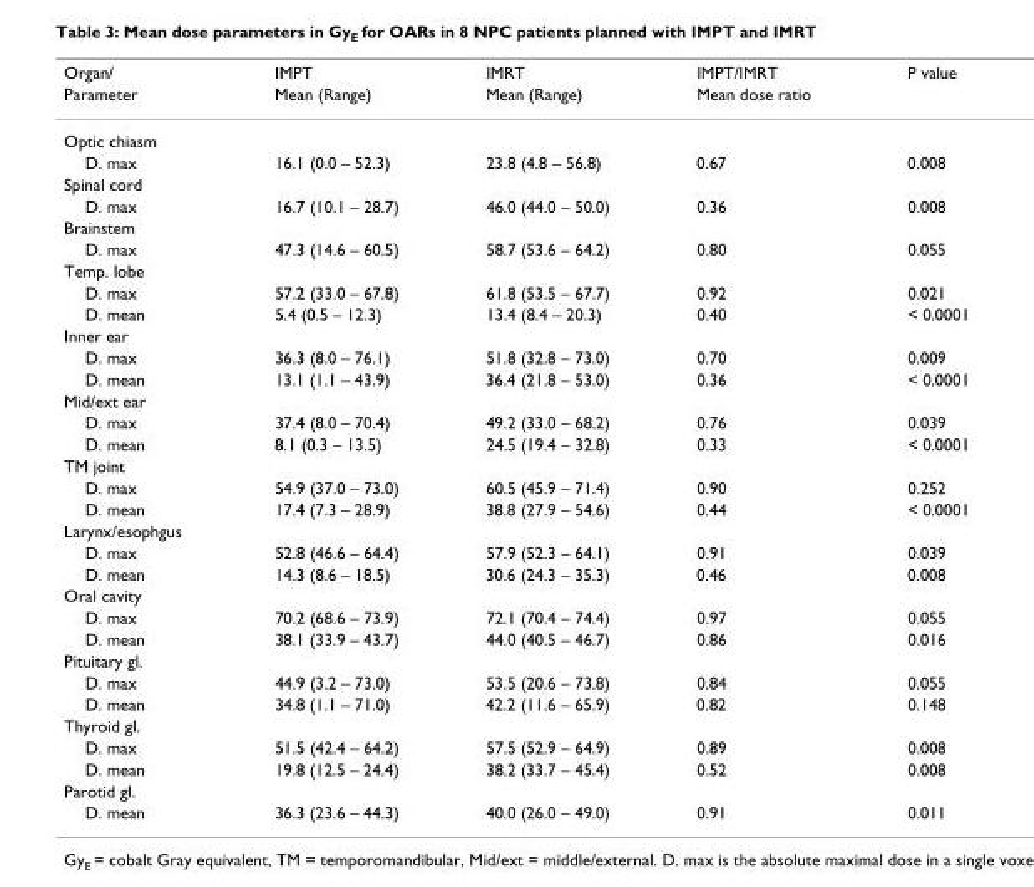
<table><thead><tr><td rowspan="2">Organ/ Parameter</td><td rowspan="2">IMPT Mean (Range)</td><td rowspan="2">IMRT Mean (Range)</td><td rowspan="2">IMPT/IMRT Mean dose ratio</td><td rowspan="2">P value</td></tr><tr></tr></thead><tbody><tr><td colspan="5">Optic chiasm</td></tr><tr><td>D. max</td><td>16.1 (0.0 – 52.3)</td><td>23.8 (4.8 – 56.8)</td><td>0.67</td><td>0.008</td></tr><tr><td colspan="5">Spinal cord</td></tr><tr><td>D. max</td><td>16.7 (10.1 – 28.7)</td><td>46.0 (44.0 – 50.0)</td><td>0.36</td><td>0.008</td></tr><tr><td colspan="5">Brainstem</td></tr><tr><td>D. max</td><td>47.3 (14.6 – 60.5)</td><td>58.7 (53.6 – 64.2)</td><td>0.80</td><td>0.055</td></tr><tr><td colspan="5">Temp. lobe</td></tr><tr><td>D. max</td><td>57.2 (33.0 – 67.8)</td><td>61.8 (53.5 – 67.7)</td><td>0.92</td><td>0.021</td></tr><tr><td>D. mean</td><td>5.4 (0.5 – 12.3)</td><td>13.4 (8.4 – 20.3)</td><td>0.40</td><td>&lt; 0.0001</td></tr><tr><td colspan="5">Inner ear</td></tr><tr><td>D. max</td><td>36.3 (8.0 – 76.1)</td><td>51.8 (32.8 – 73.0)</td><td>0.70</td><td>0.009</td></tr><tr><td>D. mean</td><td>13.1 (1.1 – 43.9)</td><td>36.4 (21.8 – 53.0)</td><td>0.36</td><td>&lt; 0.0001</td></tr><tr><td colspan="5">Mid/ext ear</td></tr><tr><td>D. max</td><td>37.4 (8.0 – 70.4)</td><td>49.2 (33.0 – 68.2)</td><td>0.76</td><td>0.039</td></tr><tr><td>D. mean</td><td>8.1 (0.3 – 13.5)</td><td>24.5 (19.4 – 32.8)</td><td>0.33</td><td>&lt; 0.0001</td></tr><tr><td colspan="5">TM joint</td></tr><tr><td>D. max</td><td>54.9 (37.0 – 73.0)</td><td>60.5 (45.9 – 71.4)</td><td>0.90</td><td>0.252</td></tr><tr><td>D. mean</td><td>17.4 (7.3 – 28.9)</td><td>38.8 (27.9 – 54.6)</td><td>0.44</td><td>&lt; 0.0001</td></tr><tr><td colspan="5">Larynx/esophgus</td></tr><tr><td>D. max</td><td>52.8 (46.6 – 64.4)</td><td>57.9 (52.3 – 64.1)</td><td>0.91</td><td>0.039</td></tr><tr><td>D. mean</td><td>14.3 (8.6 – 18.5)</td><td>30.6 (24.3 – 35.3)</td><td>0.46</td><td>0.008</td></tr><tr><td colspan="5">Oral cavity</td></tr><tr><td>D. max</td><td>70.2 (68.6 – 73.9)</td><td>72.1 (70.4 – 74.4)</td><td>0.97</td><td>0.055</td></tr><tr><td>D. mean</td><td>38.1 (33.9 – 43.7)</td><td>44.0 (40.5 – 46.7)</td><td>0.86</td><td>0.016</td></tr><tr><td colspan="5">Pituitary gl.</td></tr><tr><td>D. max</td><td>44.9 (3.2 – 73.0)</td><td>53.5 (20.6 – 73.8)</td><td>0.84</td><td>0.055</td></tr><tr><td>D. mean</td><td>34.8 (1.1 – 71.0)</td><td>42.2 (11.6 – 65.9)</td><td>0.82</td><td>0.148</td></tr><tr><td colspan="5">Thyroid gl.</td></tr><tr><td>D. max</td><td>51.5 (42.4 – 64.2)</td><td>57.5 (52.9 – 64.9)</td><td>0.89</td><td>0.008</td></tr><tr><td>D. mean</td><td>19.8 (12.5 – 24.4)</td><td>38.2 (33.7 – 45.4)</td><td>0.52</td><td>0.008</td></tr><tr><td colspan="5">Parotid gl.</td></tr><tr><td>D. mean</td><td>36.3 (23.6 – 44.3)</td><td>40.0 (26.0 – 49.0)</td><td>0.91</td><td>0.011</td></tr></tbody></table>